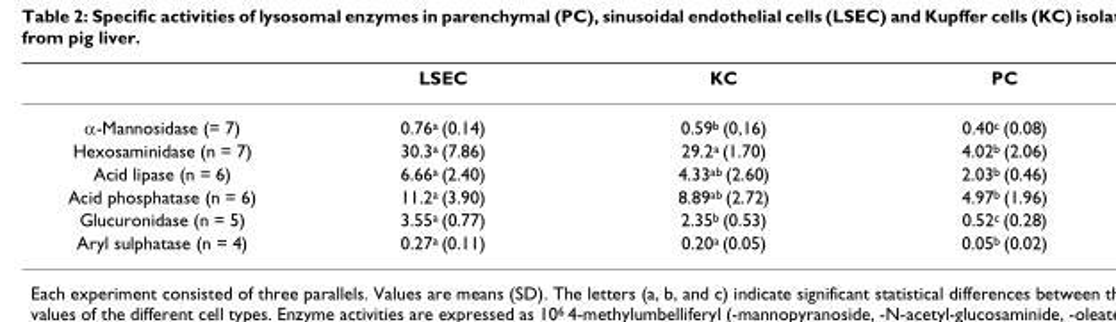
<table><thead><tr><td></td><td>LSEC</td><td>KC</td><td>PC</td></tr></thead><tbody><tr><td>α-Mannosidase (= 7)</td><td>0.76<sup>a</sup> (0.14)</td><td>0.59<sup>b</sup> (0,16)</td><td>0.40<sup>c</sup> (0.08)</td></tr><tr><td>Hexosaminidase (n = 7)</td><td>30.3<sup>a</sup> (7.86)</td><td>29.2<sup>a</sup> (1.70)</td><td>4.02<sup>b</sup> (2.06)</td></tr><tr><td>Acid lipase (n = 6)</td><td>6.66<sup>a</sup> (2.40)</td><td>4.33<sup>ab</sup> (2.60)</td><td>2.03<sup>b</sup> (0.46)</td></tr><tr><td>Acid phosphatase (n = 6)</td><td>11.2<sup>a</sup> (3.90)</td><td>8.89<sup>ab</sup> (2.72)</td><td>4.97<sup>b</sup> (1.96)</td></tr><tr><td>Glucuronidase (n = 5)</td><td>3.55<sup>a</sup> (0.77)</td><td>2.35<sup>b</sup> (0.53)</td><td>0.52<sup>c</sup> (0.28)</td></tr><tr><td>Aryl sulphatase (n = 4)</td><td>0.27<sup>a</sup> (0.11)</td><td>0.20<sup>a</sup> (0.05)</td><td>0.05<sup>b</sup> (0.02)</td></tr></tbody></table>